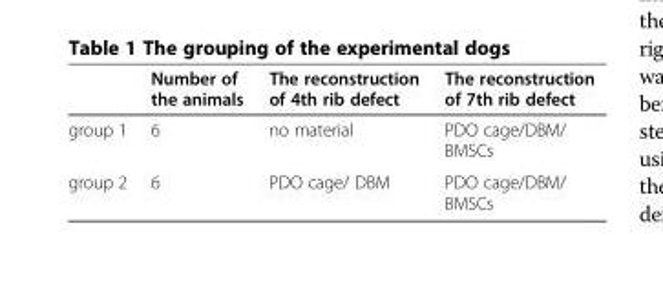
<table><thead><tr><td></td><td>Number of the animals</td><td>The reconstruction of 4th rib defect</td><td>The reconstruction of 7th rib defect</td></tr></thead><tbody><tr><td>group 1</td><td>6</td><td>no material</td><td>PDO cage/DBM/ BMSCs</td></tr><tr><td>group 2</td><td>6</td><td>PDO cage/ DBM</td><td>PDO cage/DBM/ BMSCs</td></tr></tbody></table>